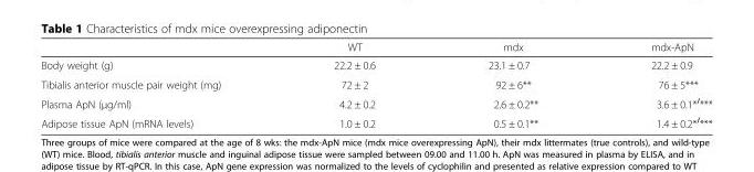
<table><thead><tr><td></td><td>WT</td><td>mdx</td><td>mdx-ApN</td></tr></thead><tbody><tr><td>Body weight (g)</td><td>22.2 ± 0.6</td><td>23.1 ± 0.7</td><td>22.2 ± 0.9</td></tr><tr><td>Tibialis anterior muscle pair weight (mg)</td><td>72 ± 2</td><td>92 ± 6**</td><td>76 ± 5***</td></tr><tr><td>Plasma ApN (μg/ml)</td><td>4.2 ± 0.2</td><td>2.6 ± 0.2**</td><td>3.6 ± 0.1*<sup>/</sup>***</td></tr><tr><td>Adipose tissue ApN (mRNA levels)</td><td>1.0 ± 0.2</td><td>0.5 ± 0.1**</td><td>1.4 ± 0.2*<sup>/</sup>***</td></tr></tbody></table>